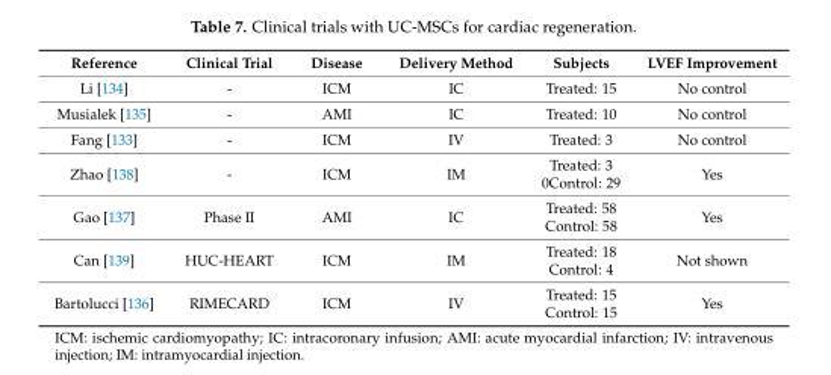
<table><thead><tr><td>Reference</td><td>Clinical Trial</td><td>Disease</td><td>Delivery Method</td><td>Subjects</td><td>LVEF Improvement</td></tr></thead><tbody><tr><td>Li [134]</td><td>-</td><td>ICM</td><td>IC</td><td>Treated: 15</td><td>No control</td></tr><tr><td>Musialek [135]</td><td>-</td><td>AMI</td><td>IC</td><td>Treated: 10</td><td>No control</td></tr><tr><td>Fang [133]</td><td>-</td><td>ICM</td><td>IV</td><td>Treated: 3</td><td>No control</td></tr><tr><td>Zhao [138]</td><td>-</td><td>ICM</td><td>IM</td><td>Treated: 3 0Control: 29</td><td>Yes</td></tr><tr><td>Gao [137]</td><td>Phase II</td><td>AMI</td><td>IC</td><td>Treated: 58 Control: 58</td><td>Yes</td></tr><tr><td>Can [139]</td><td>HUC-HEART</td><td>ICM</td><td>IM</td><td>Treated: 18 Control: 4</td><td>Not shown</td></tr><tr><td>Bartolucci [136]</td><td>RIMECARD</td><td>ICM</td><td>IV</td><td>Treated: 15 Control: 15</td><td>Yes</td></tr></tbody></table>